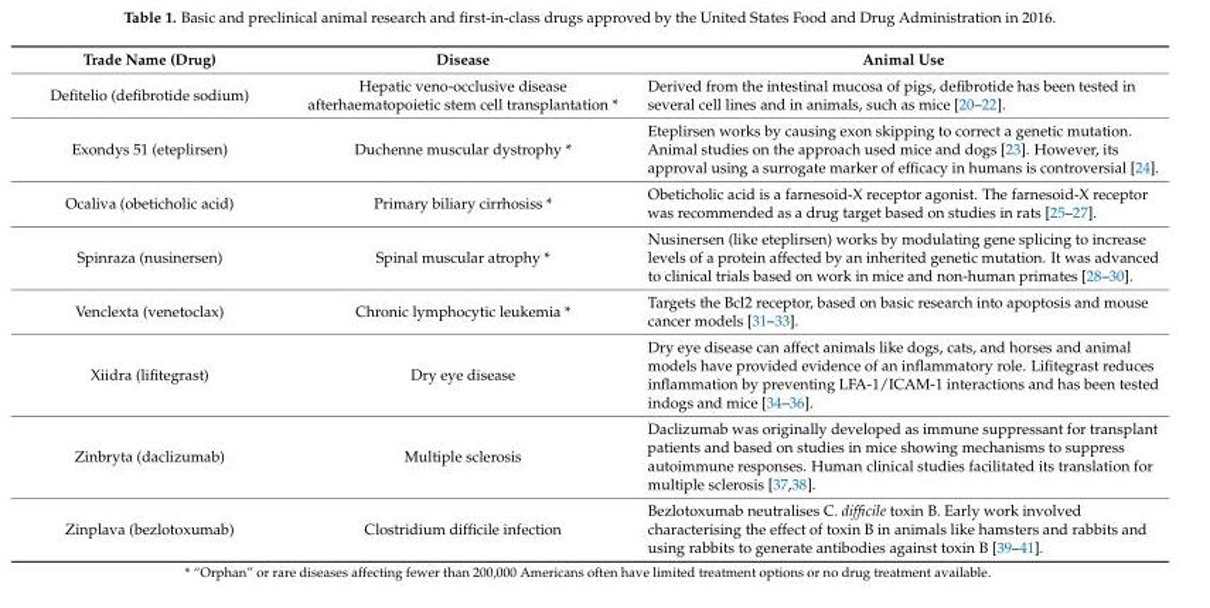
<table><thead><tr><td>Trade Name (Drug)</td><td>Disease</td><td>Animal Use</td></tr></thead><tbody><tr><td>Defitelio (defibrotide sodium)</td><td>Hepatic veno-occlusive disease afterhaematopoietic stem cell transplantation *</td><td>Derived from the intestinal mucosa of pigs, defibrotide has been tested in several cell lines and in animals, such as mice [20–22].</td></tr><tr><td>Exondys 51 (eteplirsen)</td><td>Duchenne muscular dystrophy *</td><td>Eteplirsen works by causing exon skipping to correct a genetic mutation. Animal studies on the approach used mice and dogs [23]. However, its approval using a surrogate marker of efficacy in humans is controversial [24].</td></tr><tr><td>Ocaliva (obeticholic acid)</td><td>Primary biliary cirrhosiss *</td><td>Obeticholic acid is a farnesoid-X receptor agonist. The farnesoid-X receptor was recommended as a drug target based on studies in rats [25–27].</td></tr><tr><td>Spinraza (nusinersen)</td><td>Spinal muscular atrophy *</td><td>Nusinersen (like eteplirsen) works by modulating gene splicing to increase levels of a protein affected by an inherited genetic mutation. It was advanced to clinical trials based on work in mice and non-human primates [28–30].</td></tr><tr><td>Venclexta (venetoclax)</td><td>Chronic lymphocytic leukemia *</td><td>Targets the Bcl2 receptor, based on basic research into apoptosis and mouse cancer models [31–33].</td></tr><tr><td>Xiidra (lifitegrast)</td><td>Dry eye disease</td><td>Dry eye disease can affect animals like dogs, cats, and horses and animal models have provided evidence of an inflammatory role. Lifitegrast reduces inflammation by preventing LFA-1/ICAM-1 interactions and has been tested indogs and mice [34–36].</td></tr><tr><td>Zinbryta (daclizumab)</td><td>Multiple sclerosis</td><td>Daclizumab was originally developed as immune suppressant for transplant patients and based on studies in mice showing mechanisms to suppress autoimmune responses. Human clinical studies facilitated its translation for multiple sclerosis [37,38].</td></tr><tr><td>Zinplava (bezlotoxumab)</td><td>Clostridium difficile infection</td><td>Bezlotoxumab neutralises C. difficile toxin B. Early work involved characterising the effect of toxin B in animals like hamsters and rabbits and using rabbits to generate antibodies against toxin B [39–41].</td></tr></tbody></table>